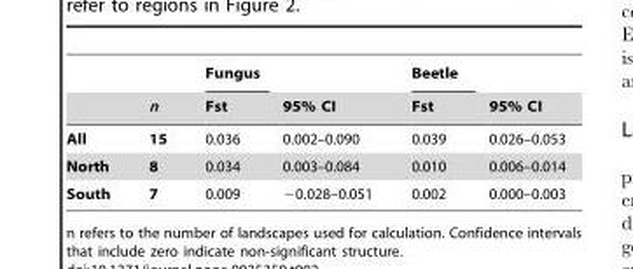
<table><thead><tr><td rowspan="2"></td><td rowspan="2">n</td><td rowspan="2">Fungus Fst</td><td rowspan="2">95% CI</td><td rowspan="2">Beetle Fst</td><td rowspan="2">95% CI</td></tr><tr></tr></thead><tbody><tr><td>All</td><td>15</td><td>0.036</td><td>0.002–0.090</td><td>0.039</td><td>0.026–0.053</td></tr><tr><td>North</td><td>8</td><td>0.034</td><td>0.003–0.084</td><td>0.010</td><td>0.006–0.014</td></tr><tr><td>South</td><td>7</td><td>0.009</td><td>−0.028–0.051</td><td>0.002</td><td>0.000–0.003</td></tr></tbody></table>